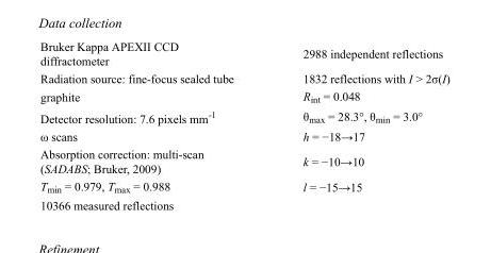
<table><tbody><tr><td>Bruker Kappa APEXII CCD diffractometer</td><td>2988 independent reflections</td></tr><tr><td>Radiation source: fine-focus sealed tube</td><td>1832 reflections with I &gt; 2σ(I)</td></tr><tr><td>graphite</td><td>R<sub>int</sub> = 0.048</td></tr><tr><td>Detector resolution: 7.6 pixels mm<sup>-1</sup></td><td>θ<sub>max</sub> = 28.3°, θ<sub>min</sub> = 3.0°</td></tr><tr><td>ω scans</td><td>h = −18→17</td></tr><tr><td>Absorption correction: multi-scan (SADABS; Bruker, 2009)</td><td>k = −10→10</td></tr><tr><td>T<sub>min</sub> = 0.979, T<sub>max</sub> = 0.988</td><td>l = −15→15</td></tr><tr><td>10366 measured reflections</td><td></td></tr></tbody></table>